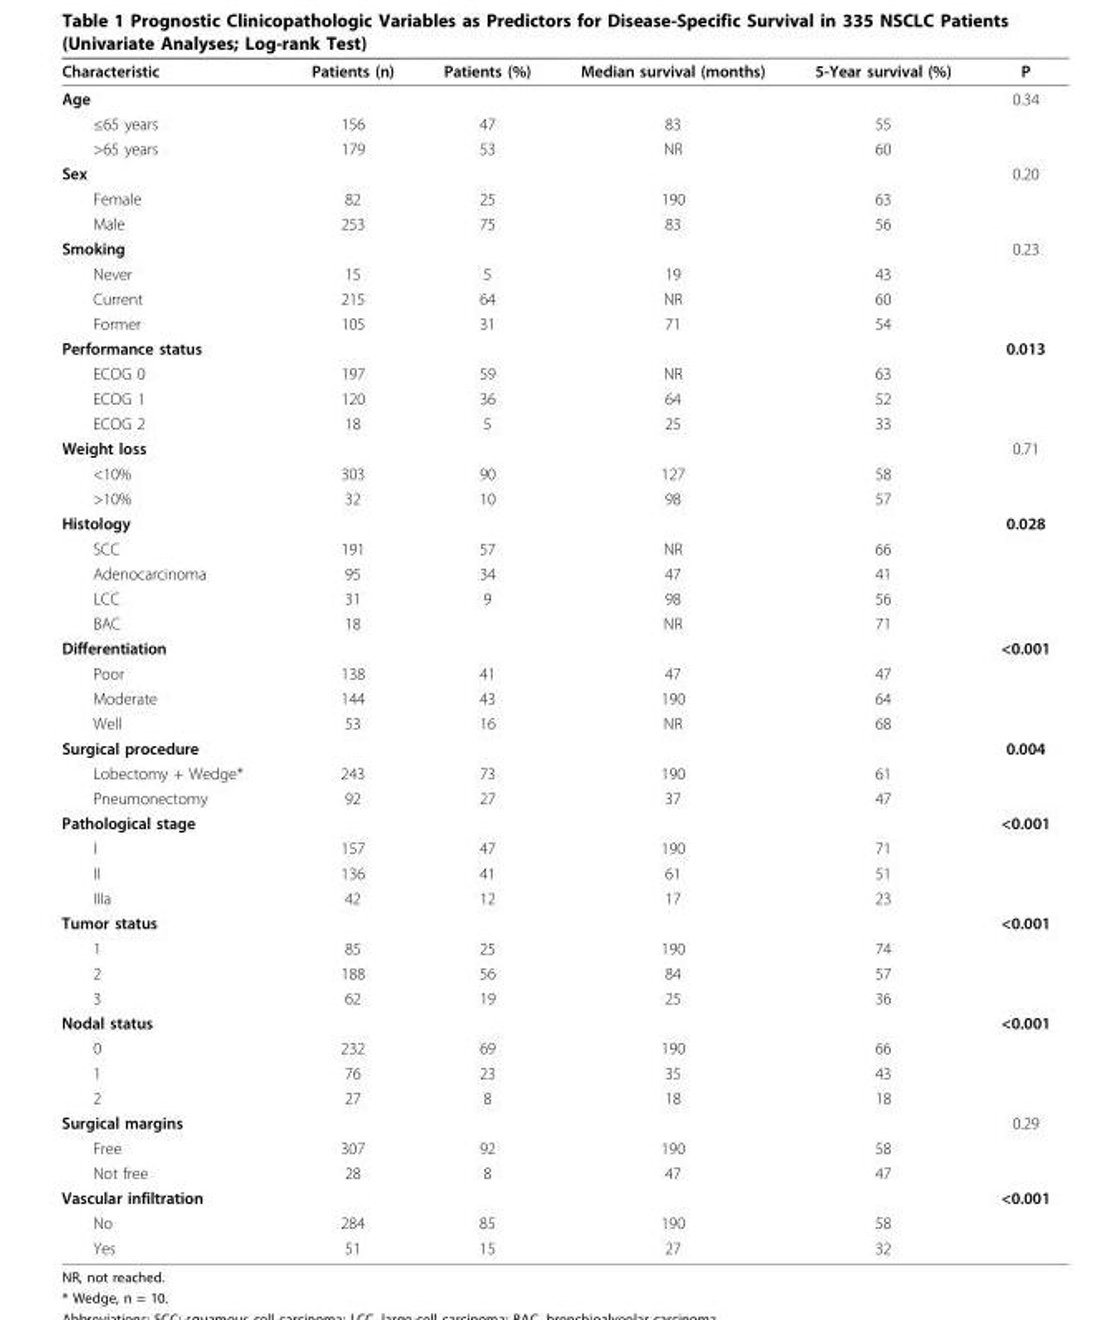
<table><thead><tr><td>Characteristic</td><td>Patients (n)</td><td>Patients (%)</td><td>Median survival (months)</td><td>5-Year survival (%)</td><td>P</td></tr></thead><tbody><tr><td>Age</td><td></td><td></td><td></td><td></td><td>0.34</td></tr><tr><td>≤65 years</td><td>156</td><td>47</td><td>83</td><td>55</td><td></td></tr><tr><td>&gt;65 years</td><td>179</td><td>53</td><td>NR</td><td>60</td><td></td></tr><tr><td>Sex</td><td></td><td></td><td></td><td></td><td>0.20</td></tr><tr><td>Female</td><td>82</td><td>25</td><td>190</td><td>63</td><td></td></tr><tr><td>Male</td><td>253</td><td>75</td><td>83</td><td>56</td><td></td></tr><tr><td>Smoking</td><td></td><td></td><td></td><td></td><td>0.23</td></tr><tr><td>Never</td><td>15</td><td>5</td><td>19</td><td>43</td><td></td></tr><tr><td>Current</td><td>215</td><td>64</td><td>NR</td><td>60</td><td></td></tr><tr><td>Former</td><td>105</td><td>31</td><td>71</td><td>54</td><td></td></tr><tr><td>Performance status</td><td></td><td></td><td></td><td></td><td>0.013</td></tr><tr><td>ECOG 0</td><td>197</td><td>59</td><td>NR</td><td>63</td><td></td></tr><tr><td>ECOG 1</td><td>120</td><td>36</td><td>64</td><td>52</td><td></td></tr><tr><td>ECOG 2</td><td>18</td><td>5</td><td>25</td><td>33</td><td></td></tr><tr><td>Weight loss</td><td></td><td></td><td></td><td></td><td>0.71</td></tr><tr><td>&lt;10%</td><td>303</td><td>90</td><td>127</td><td>58</td><td></td></tr><tr><td>&gt;10%</td><td>32</td><td>10</td><td>98</td><td>57</td><td></td></tr><tr><td>Histology</td><td></td><td></td><td></td><td></td><td>0.028</td></tr><tr><td>SCC</td><td>191</td><td>57</td><td>NR</td><td>66</td><td></td></tr><tr><td>Adenocarcinoma</td><td>95</td><td>34</td><td>47</td><td>41</td><td></td></tr><tr><td>LCC</td><td>31</td><td>9</td><td>98</td><td>56</td><td></td></tr><tr><td>BAC</td><td>18</td><td></td><td>NR</td><td>71</td><td></td></tr><tr><td>Differentiation</td><td></td><td></td><td></td><td></td><td>&lt;0.001</td></tr><tr><td>Poor</td><td>138</td><td>41</td><td>47</td><td>47</td><td></td></tr><tr><td>Moderate</td><td>144</td><td>43</td><td>190</td><td>64</td><td></td></tr><tr><td>Well</td><td>53</td><td>16</td><td>NR</td><td>68</td><td></td></tr><tr><td>Surgical procedure</td><td></td><td></td><td></td><td></td><td>0.004</td></tr><tr><td>Lobectomy + Wedge*</td><td>243</td><td>73</td><td>190</td><td>61</td><td></td></tr><tr><td>Pneumonectomy</td><td>92</td><td>27</td><td>37</td><td>47</td><td></td></tr><tr><td>Pathological stage</td><td></td><td></td><td></td><td></td><td>&lt;0.001</td></tr><tr><td>I</td><td>157</td><td>47</td><td>190</td><td>71</td><td></td></tr><tr><td>II</td><td>136</td><td>41</td><td>61</td><td>51</td><td></td></tr><tr><td>IIIa</td><td>42</td><td>12</td><td>17</td><td>23</td><td></td></tr><tr><td>Tumor status</td><td></td><td></td><td></td><td></td><td>&lt;0.001</td></tr><tr><td>1</td><td>85</td><td>25</td><td>190</td><td>74</td><td></td></tr><tr><td>2</td><td>188</td><td>56</td><td>84</td><td>57</td><td></td></tr><tr><td>3</td><td>62</td><td>19</td><td>25</td><td>36</td><td></td></tr><tr><td>Nodal status</td><td></td><td></td><td></td><td></td><td>&lt;0.001</td></tr><tr><td>0</td><td>232</td><td>69</td><td>190</td><td>66</td><td></td></tr><tr><td>1</td><td>76</td><td>23</td><td>35</td><td>43</td><td></td></tr><tr><td>2</td><td>27</td><td>8</td><td>18</td><td>18</td><td></td></tr><tr><td>Surgical margins</td><td></td><td></td><td></td><td></td><td>0.29</td></tr><tr><td>Free</td><td>307</td><td>92</td><td>190</td><td>58</td><td></td></tr><tr><td>Not free</td><td>28</td><td>8</td><td>47</td><td>47</td><td></td></tr><tr><td>Vascular infiltration</td><td></td><td></td><td></td><td></td><td>&lt;0.001</td></tr><tr><td>No</td><td>284</td><td>85</td><td>190</td><td>58</td><td></td></tr><tr><td>Yes</td><td>51</td><td>15</td><td>27</td><td>32</td><td></td></tr></tbody></table>